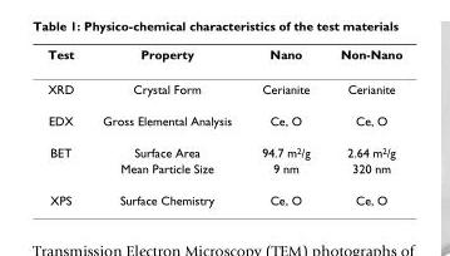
<table><thead><tr><td>Test</td><td>Property</td><td>Nano</td><td>Non-Nano</td></tr></thead><tbody><tr><td>XRD</td><td>Crystal Form</td><td>Cerianite</td><td>Cerianite</td></tr><tr><td>EDX</td><td>Gross Elemental Analysis</td><td>Ce, O</td><td>Ce, O</td></tr><tr><td rowspan="2">BET</td><td>Surface Area</td><td>94.7 m<sup>2</sup>/g</td><td>2.64 m<sup>2</sup>/g</td></tr><tr><td>Mean Particle Size</td><td>9 nm</td><td>320 nm</td></tr><tr><td>XPS</td><td>Surface Chemistry</td><td>Ce, O</td><td>Ce, O</td></tr></tbody></table>